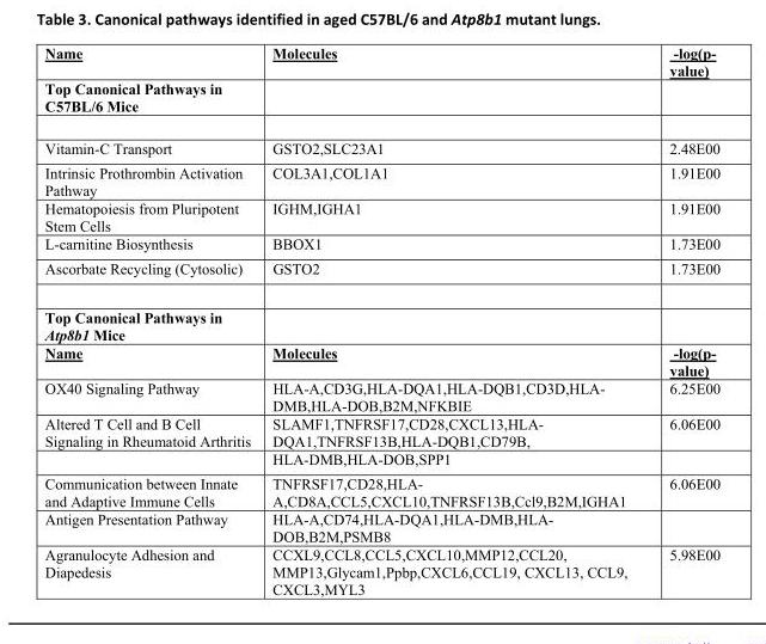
<table><tbody><tr><td>Name</td><td>Molecules</td><td>-log(p- value)</td></tr><tr><td colspan="3">Top Canonical Pathways in C57BL/6 Mice</td></tr><tr><td>Vitamin-C Transport</td><td>GSTO2,SLC23A1</td><td>2.48E00</td></tr><tr><td>Intrinsic Prothrombin Activation Pathway</td><td>COL3A1,COL1A1</td><td>1.91E00</td></tr><tr><td>Hematopoiesis from Pluripotent Stem Cells</td><td>IGHM,IGHA1</td><td>1.91E00</td></tr><tr><td>L-carnitine Biosynthesis</td><td>BBOX1</td><td>1.73E00</td></tr><tr><td>Ascorbate Recycling (Cytosolic)</td><td>GSTO2</td><td>1.73E00</td></tr><tr><td colspan="3">Top Canonical Pathways in Atp8b1 Mice</td></tr><tr><td>Name</td><td>Molecules</td><td>-log(p- value)</td></tr><tr><td>OX40 Signaling Pathway</td><td>HLA-A,CD3G,HLA-DQA1,HLA-DQB1,CD3D,HLA- DMB,HLA-DOB,B2M,NFKBIE</td><td>6.25E00</td></tr><tr><td rowspan="2">Altered T Cell and B Cell Signaling in Rheumatoid Arthritis</td><td>SLAMF1,TNFRSF17,CD28,CXCL13,HLA- DQA1,TNFRSF13B,HLA-DQB1,CD79B,</td><td>6.06E00</td></tr><tr><td>HLA-DMB,HLA-DOB,SPP1</td><td></td></tr><tr><td>Communication between Innate and Adaptive Immune Cells</td><td>TNFRSF17,CD28,HLA- A,CD8A,CCL5,CXCL10,TNFRSF13B,Ccl9,B2M,IGHA1</td><td>6.06E00</td></tr><tr><td>Antigen Presentation Pathway</td><td>HLA-A,CD74,HLA-DQA1,HLA-DMB,HLA- DOB,B2M,PSMB8</td><td></td></tr><tr><td>Agranulocyte Adhesion and Diapedesis</td><td>CCXL9,CCL8,CCL5,CXCL10,MMP12,CCL20, MMP13,Glycam1,Ppbp,CXCL6,CCL19, CXCL13, CCL9, CXCL3,MYL3</td><td>5.98E00</td></tr></tbody></table>